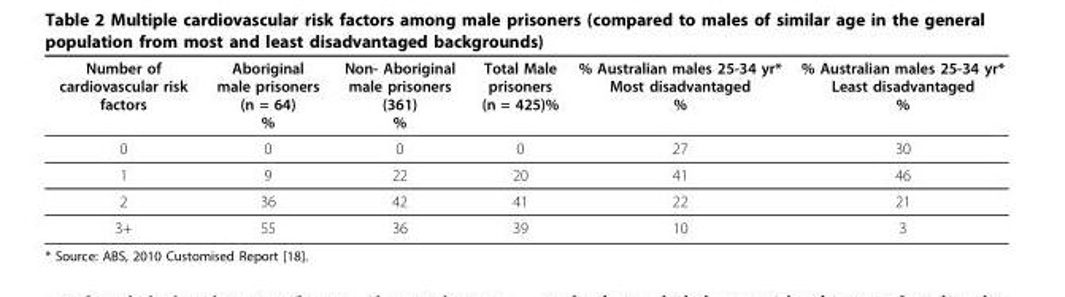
<table><thead><tr><td>Number of cardiovascular risk factors</td><td>Aboriginal male prisoners (n = 64) %</td><td>Non- Aboriginal male prisoners (361) %</td><td>Total Male prisoners (n = 425)%</td><td>% Australian males 25-34 yr* Most disadvantaged %</td><td>% Australian males 25-34 yr* Least disadvantaged %</td></tr></thead><tbody><tr><td>0</td><td>0</td><td>0</td><td>0</td><td>27</td><td>30</td></tr><tr><td>1</td><td>9</td><td>22</td><td>20</td><td>41</td><td>46</td></tr><tr><td>2</td><td>36</td><td>42</td><td>41</td><td>22</td><td>21</td></tr><tr><td>3+</td><td>55</td><td>36</td><td>39</td><td>10</td><td>3</td></tr></tbody></table>